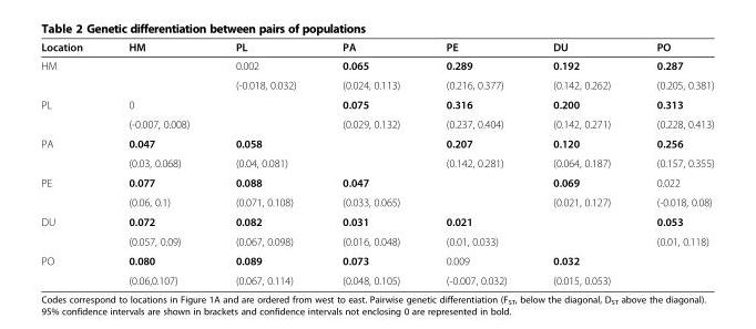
<table><thead><tr><td>Location</td><td>HM</td><td>PL</td><td>PA</td><td>PE</td><td>DU</td><td>PO</td></tr></thead><tbody><tr><td rowspan="2">HM</td><td rowspan="2"></td><td>0.002</td><td>0.065</td><td>0.289</td><td>0.192</td><td>0.287</td></tr><tr><td>(-0.018, 0.032)</td><td>(0.024, 0.113)</td><td>(0.216, 0.377)</td><td>(0.142, 0.262)</td><td>(0.205, 0.381)</td></tr><tr><td rowspan="2">PL</td><td>0</td><td></td><td>0.075</td><td>0.316</td><td>0.200</td><td>0.313</td></tr><tr><td>(-0.007, 0.008)</td><td></td><td>(0.029, 0.132)</td><td>(0.237, 0.404)</td><td>(0.142, 0.271)</td><td>(0.228, 0.413)</td></tr><tr><td rowspan="2">PA</td><td>0.047</td><td>0.058</td><td></td><td>0.207</td><td>0.120</td><td>0.256</td></tr><tr><td>(0.03, 0.068)</td><td>(0.04, 0.081)</td><td></td><td>(0.142, 0.281)</td><td>(0.064, 0.187)</td><td>(0.157, 0.355)</td></tr><tr><td rowspan="2">PE</td><td>0.077</td><td>0.088</td><td>0.047</td><td></td><td>0.069</td><td>0.022</td></tr><tr><td>(0.06, 0.1)</td><td>(0.071, 0.108)</td><td>(0.033, 0.065)</td><td></td><td>(0.021, 0.127)</td><td>(-0.018, 0.08)</td></tr><tr><td rowspan="2">DU</td><td>0.072</td><td>0.082</td><td>0.031</td><td>0.021</td><td></td><td>0.053</td></tr><tr><td>(0.057, 0.09)</td><td>(0.067, 0.098)</td><td>(0.016, 0.048)</td><td>(0.01, 0.033)</td><td></td><td>(0.01, 0.118)</td></tr><tr><td rowspan="2">PO</td><td>0.080</td><td>0.089</td><td>0.073</td><td>0.009</td><td>0.032</td><td rowspan="2"></td></tr><tr><td>(0.06,0.107)</td><td>(0.067, 0.114)</td><td>(0.048, 0.105)</td><td>(-0.007, 0.032)</td><td>(0.015, 0.053)</td></tr></tbody></table>